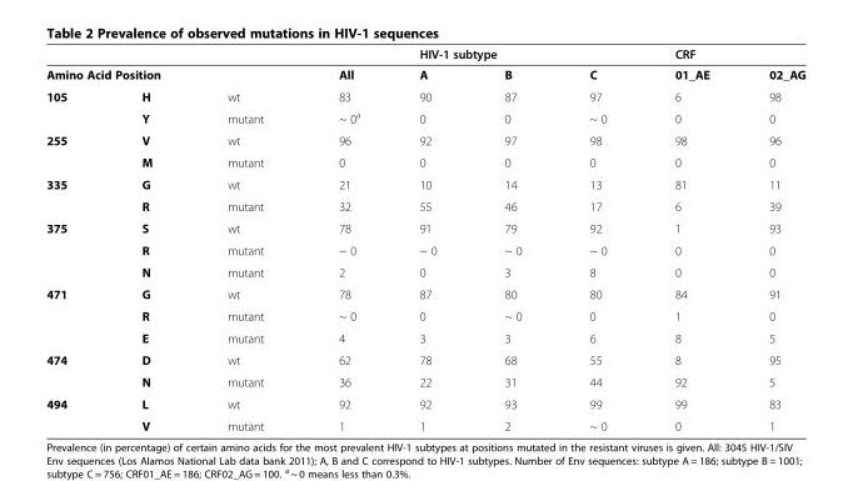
<table><thead><tr><td></td><td></td><td></td><td rowspan="2">All</td><td colspan="3">HIV-1 subtype</td><td colspan="2">CRF</td></tr><tr><td colspan="3">Amino Acid Position</td><td>A</td><td>B</td><td>C</td><td>01_AE</td><td>02_AG</td></tr></thead><tbody><tr><td rowspan="2">105</td><td>H</td><td>wt</td><td>83</td><td>90</td><td>87</td><td>97</td><td>6</td><td>98</td></tr><tr><td>Y</td><td>mutant</td><td>~ 0<sup>a</sup></td><td>0</td><td>0</td><td>~ 0</td><td>0</td><td>0</td></tr><tr><td rowspan="2">255</td><td>V</td><td>wt</td><td>96</td><td>92</td><td>97</td><td>98</td><td>98</td><td>96</td></tr><tr><td>M</td><td>mutant</td><td>0</td><td>0</td><td>0</td><td>0</td><td>0</td><td>0</td></tr><tr><td rowspan="2">335</td><td>G</td><td>wt</td><td>21</td><td>10</td><td>14</td><td>13</td><td>81</td><td>11</td></tr><tr><td>R</td><td>mutant</td><td>32</td><td>55</td><td>46</td><td>17</td><td>6</td><td>39</td></tr><tr><td rowspan="3">375</td><td>S</td><td>wt</td><td>78</td><td>91</td><td>79</td><td>92</td><td>1</td><td>93</td></tr><tr><td>R</td><td>mutant</td><td>~ 0</td><td>~ 0</td><td>~ 0</td><td>~ 0</td><td>0</td><td>0</td></tr><tr><td>N</td><td>mutant</td><td>2</td><td>0</td><td>3</td><td>8</td><td>0</td><td>0</td></tr><tr><td rowspan="3">471</td><td>G</td><td>wt</td><td>78</td><td>87</td><td>80</td><td>80</td><td>84</td><td>91</td></tr><tr><td>R</td><td>mutant</td><td>~ 0</td><td>0</td><td>~ 0</td><td>0</td><td>1</td><td>0</td></tr><tr><td>E</td><td>mutant</td><td>4</td><td>3</td><td>3</td><td>6</td><td>8</td><td>5</td></tr><tr><td rowspan="2">474</td><td>D</td><td>wt</td><td>62</td><td>78</td><td>68</td><td>55</td><td>8</td><td>95</td></tr><tr><td>N</td><td>mutant</td><td>36</td><td>22</td><td>31</td><td>44</td><td>92</td><td>5</td></tr><tr><td rowspan="2">494</td><td>L</td><td>wt</td><td>92</td><td>92</td><td>93</td><td>99</td><td>99</td><td>83</td></tr><tr><td>V</td><td>mutant</td><td>1</td><td>1</td><td>2</td><td>~ 0</td><td>0</td><td>1</td></tr></tbody></table>